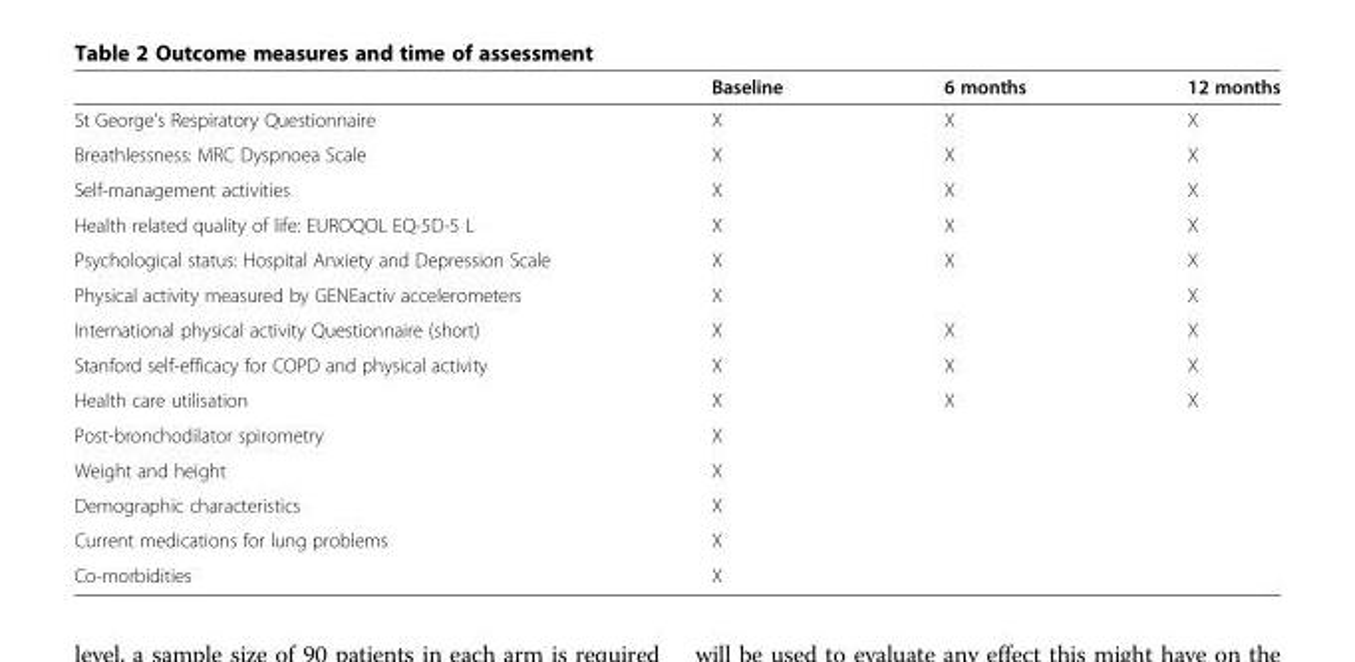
<table><thead><tr><td></td><td>Baseline</td><td>6 months</td><td>12 months</td></tr></thead><tbody><tr><td>St George’s Respiratory Questionnaire</td><td>X</td><td>X</td><td>X</td></tr><tr><td>Breathlessness: MRC Dyspnoea Scale</td><td>X</td><td>X</td><td>X</td></tr><tr><td>Self-management activities</td><td>X</td><td>X</td><td>X</td></tr><tr><td>Health related quality of life: EUROQOL EQ-5D-5 L</td><td>X</td><td>X</td><td>X</td></tr><tr><td>Psychological status: Hospital Anxiety and Depression Scale</td><td>X</td><td>X</td><td>X</td></tr><tr><td>Physical activity measured by GENEactiv accelerometers</td><td>X</td><td></td><td>X</td></tr><tr><td>International physical activity Questionnaire (short)</td><td>X</td><td>X</td><td>X</td></tr><tr><td>Stanford self-efficacy for COPD and physical activity</td><td>X</td><td>X</td><td>X</td></tr><tr><td>Health care utilisation</td><td>X</td><td>X</td><td>X</td></tr><tr><td>Post-bronchodilator spirometry</td><td>X</td><td></td><td></td></tr><tr><td>Weight and height</td><td>X</td><td></td><td></td></tr><tr><td>Demographic characteristics</td><td>X</td><td></td><td></td></tr><tr><td>Current medications for lung problems</td><td>X</td><td></td><td></td></tr><tr><td>Co-morbidities</td><td>X</td><td></td><td></td></tr></tbody></table>